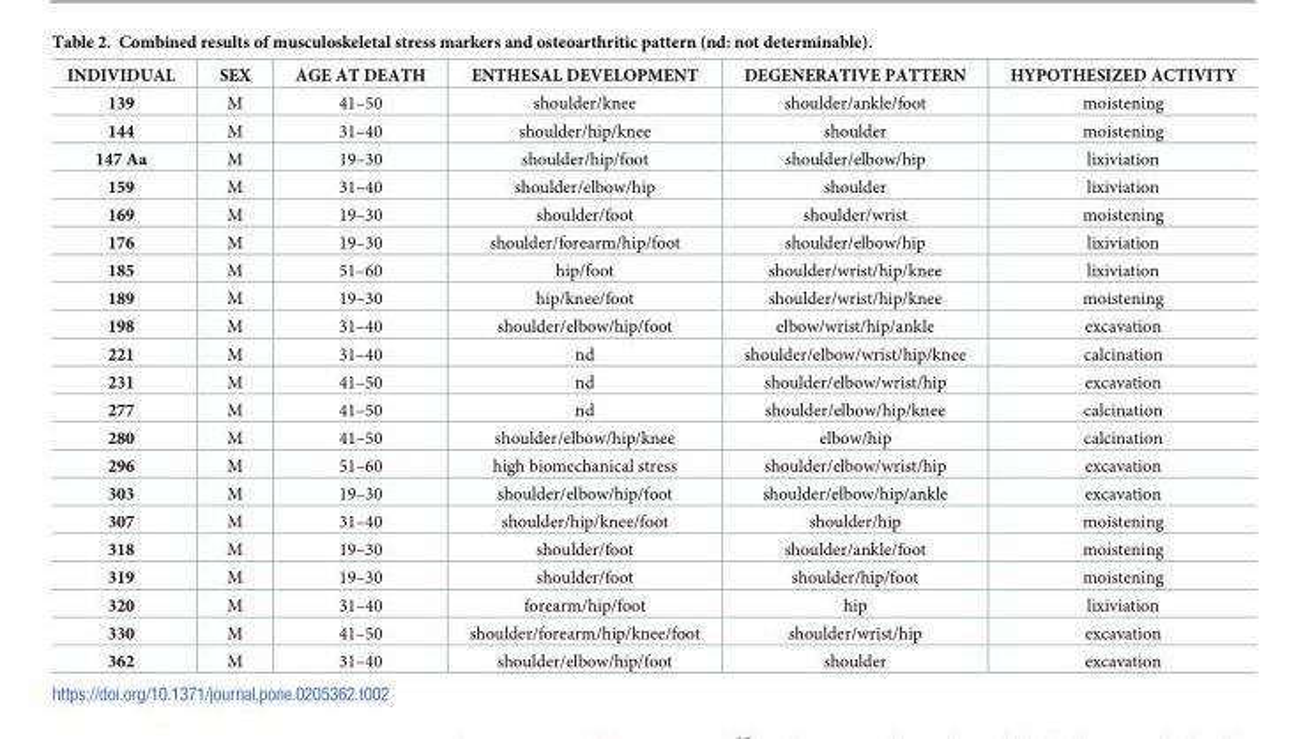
<table><thead><tr><td>INDIVIDUAL</td><td>SEX</td><td>AGE AT DEATH</td><td>ENTHESAL DEVELOPMENT</td><td>DEGENERATIVE PATTERN</td><td>HYPOTHESIZED ACTIVITY</td></tr></thead><tbody><tr><td>139</td><td>M</td><td>41–50</td><td>shoulder/knee</td><td>shoulder/ankle/foot</td><td>moistening</td></tr><tr><td>144</td><td>M</td><td>31–40</td><td>shoulder/hip/knee</td><td>shoulder</td><td>moistening</td></tr><tr><td>147 Aa</td><td>M</td><td>19–30</td><td>shoulder/hip/foot</td><td>shoulder/elbow/hip</td><td>lixiviation</td></tr><tr><td>159</td><td>M</td><td>31–40</td><td>shoulder/elbow/hip</td><td>shoulder</td><td>lixiviation</td></tr><tr><td>169</td><td>M</td><td>19–30</td><td>shoulder/foot</td><td>shoulder/wrist</td><td>moistening</td></tr><tr><td>176</td><td>M</td><td>19–30</td><td>shoulder/forearm/hip/foot</td><td>shoulder/elbow/hip</td><td>lixiviation</td></tr><tr><td>185</td><td>M</td><td>51–60</td><td>hip/foot</td><td>shoulder/wrist/hip/knee</td><td>lixiviation</td></tr><tr><td>189</td><td>M</td><td>19–30</td><td>hip/knee/foot</td><td>shoulder/wrist/hip/knee</td><td>moistening</td></tr><tr><td>198</td><td>M</td><td>31–40</td><td>shoulder/elbow/hip/foot</td><td>elbow/wrist/hip/ankle</td><td>excavation</td></tr><tr><td>221</td><td>M</td><td>31–40</td><td>nd</td><td>shoulder/elbow/wrist/hip/knee</td><td>calcination</td></tr><tr><td>231</td><td>M</td><td>41–50</td><td>nd</td><td>shoulder/elbow/wrist/hip</td><td>excavation</td></tr><tr><td>277</td><td>M</td><td>41–50</td><td>nd</td><td>shoulder/elbow/hip/knee</td><td>calcination</td></tr><tr><td>280</td><td>M</td><td>41–50</td><td>shoulder/elbow/hip/knee</td><td>elbow/hip</td><td>calcination</td></tr><tr><td>296</td><td>M</td><td>51–60</td><td>high biomechanical stress</td><td>shoulder/elbow/wrist/hip</td><td>excavation</td></tr><tr><td>303</td><td>M</td><td>19–30</td><td>shoulder/elbow/hip/foot</td><td>shoulder/elbow/hip/ankle</td><td>excavation</td></tr><tr><td>307</td><td>M</td><td>31–40</td><td>shoulder/hip/knee/foot</td><td>shoulder/hip</td><td>moistening</td></tr><tr><td>318</td><td>M</td><td>19–30</td><td>shoulder/foot</td><td>shoulder/ankle/foot</td><td>moistening</td></tr><tr><td>319</td><td>M</td><td>19–30</td><td>shoulder/foot</td><td>shoulder/hip/foot</td><td>moistening</td></tr><tr><td>320</td><td>M</td><td>31–40</td><td>forearm/hip/foot</td><td>hip</td><td>lixiviation</td></tr><tr><td>330</td><td>M</td><td>41–50</td><td>shoulder/forearm/hip/knee/foot</td><td>shoulder/wrist/hip</td><td>excavation</td></tr><tr><td>362</td><td>M</td><td>31–40</td><td>shoulder/elbow/hip/foot</td><td>shoulder</td><td>excavation</td></tr></tbody></table>